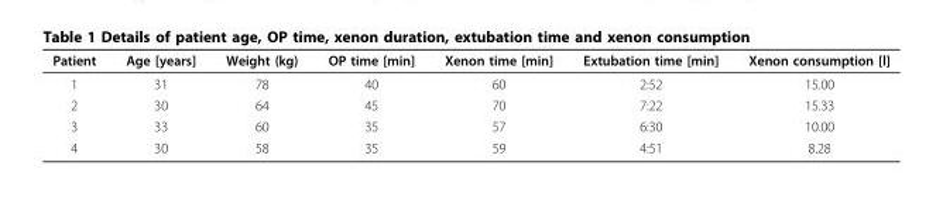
<table><thead><tr><td>Patient</td><td>Age [years]</td><td>Weight (kg)</td><td>OP time [min]</td><td>Xenon time [min]</td><td>Extubation time [min]</td><td>Xenon consumption [l]</td></tr></thead><tbody><tr><td>1</td><td>31</td><td>78</td><td>40</td><td>60</td><td>2:52</td><td>15.00</td></tr><tr><td>2</td><td>30</td><td>64</td><td>45</td><td>70</td><td>7:22</td><td>15.33</td></tr><tr><td>3</td><td>33</td><td>60</td><td>35</td><td>57</td><td>6:30</td><td>10.00</td></tr><tr><td>4</td><td>30</td><td>58</td><td>35</td><td>59</td><td>4:51</td><td>8.28</td></tr></tbody></table>